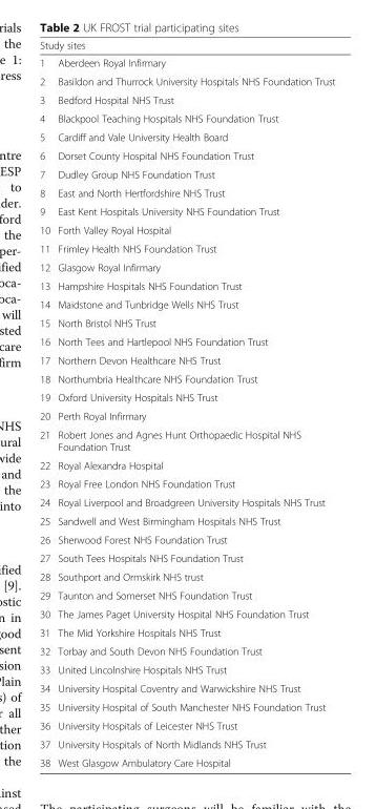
<table><thead><tr><td colspan="2">Study sites</td></tr><tr><td>1</td><td>Aberdeen Royal Infirmary</td></tr></thead><tbody><tr><td>2</td><td>Basildon and Thurrock University Hospitals NHS Foundation Trust</td></tr><tr><td>3</td><td>Bedford Hospital NHS Trust</td></tr><tr><td>4</td><td>Blackpool Teaching Hospitals NHS Foundation Trust</td></tr><tr><td>5</td><td>Cardiff and Vale University Health Board</td></tr><tr><td>6</td><td>Dorset County Hospital NHS Foundation Trust</td></tr><tr><td>7</td><td>Dudley Group NHS Foundation Trust</td></tr><tr><td>8</td><td>East and North Hertfordshire NHS Trust</td></tr><tr><td>9</td><td>East Kent Hospitals University NHS Foundation Trust</td></tr><tr><td>10</td><td>Forth Valley Royal Hospital</td></tr><tr><td>11</td><td>Frimley Health NHS Foundation Trust</td></tr><tr><td>12</td><td>Glasgow Royal Infirmary</td></tr><tr><td>13</td><td>Hampshire Hospitals NHS Foundation Trust</td></tr><tr><td>14</td><td>Maidstone and Tunbridge Wells NHS Trust</td></tr><tr><td>15</td><td>North Bristol NHS Trust</td></tr><tr><td>16</td><td>North Tees and Hartlepool NHS Foundation Trust</td></tr><tr><td>17</td><td>Northern Devon Healthcare NHS Trust</td></tr><tr><td>18</td><td>Northumbria Healthcare NHS Foundation Trust</td></tr><tr><td>19</td><td>Oxford University Hospitals NHS Trust</td></tr><tr><td>20</td><td>Perth Royal Infirmary</td></tr><tr><td>21</td><td>Robert Jones and Agnes Hunt Orthopaedic Hospital NHS Foundation Trust</td></tr><tr><td>22</td><td>Royal Alexandra Hospital</td></tr><tr><td>23</td><td>Royal Free London NHS Foundation Trust</td></tr><tr><td>24</td><td>Royal Liverpool and Broadgreen University Hospitals NHS Trust</td></tr><tr><td>25</td><td>Sandwell and West Birmingham Hospitals NHS Trust</td></tr><tr><td>26</td><td>Sherwood Forest NHS Foundation Trust</td></tr><tr><td>27</td><td>South Tees Hospitals NHS Foundation Trust</td></tr><tr><td>28</td><td>Southport and Ormskirk NHS trust</td></tr><tr><td>29</td><td>Taunton and Somerset NHS Foundation Trust</td></tr><tr><td>30</td><td>The James Paget University Hospital NHS Foundation Trust</td></tr><tr><td>31</td><td>The Mid Yorkshire Hospitals NHS Trust</td></tr><tr><td>32</td><td>Torbay and South Devon NHS Foundation Trust</td></tr><tr><td>33</td><td>United Lincolnshire Hospitals NHS Trust</td></tr><tr><td>34</td><td>University Hospital Coventry and Warwickshire NHS Trust</td></tr><tr><td>35</td><td>University Hospital of South Manchester NHS Foundation Trust</td></tr><tr><td>36</td><td>University Hospitals of Leicester NHS Trust</td></tr><tr><td>37</td><td>University Hospitals of North Midlands NHS Trust</td></tr><tr><td>38</td><td>West Glasgow Ambulatory Care Hospital</td></tr></tbody></table>